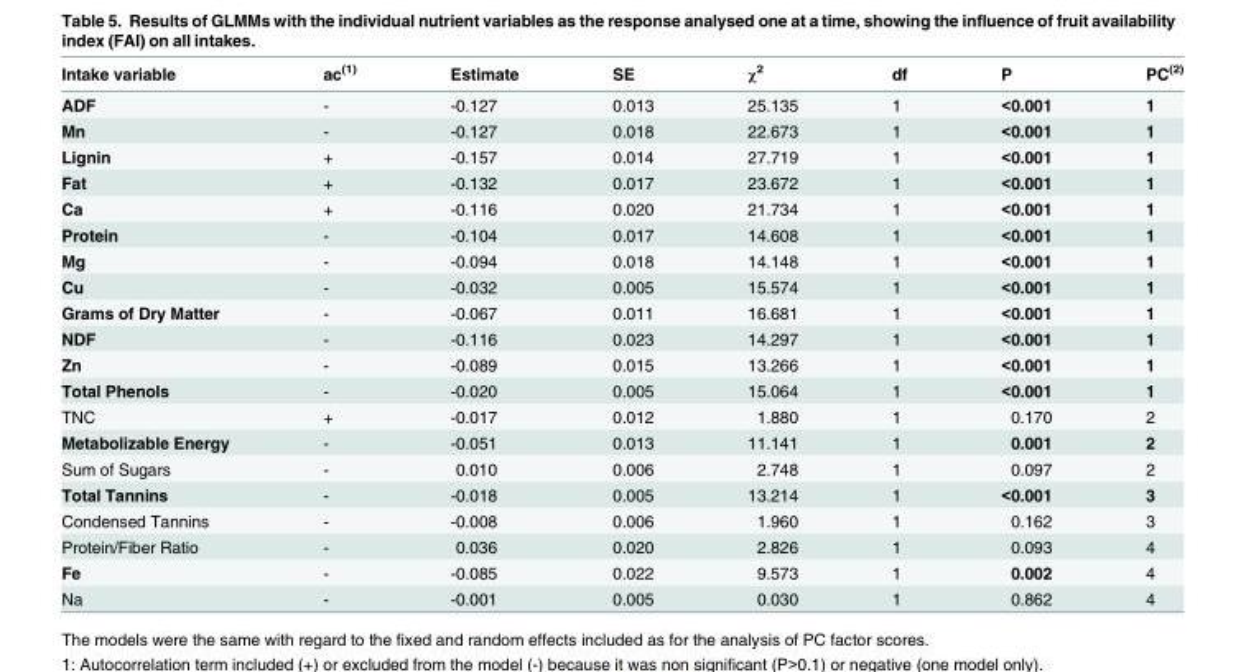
<table><thead><tr><td>Intake variable</td><td>ac<sup>(1)</sup></td><td>Estimate</td><td>SE</td><td>χ<sup>2</sup></td><td>df</td><td>P</td><td>PC<sup>(2)</sup></td></tr></thead><tbody><tr><td>ADF</td><td>-</td><td>-0.127</td><td>0.013</td><td>25.135</td><td>1</td><td>&lt;0.001</td><td>1</td></tr><tr><td>Mn</td><td>-</td><td>-0.127</td><td>0.018</td><td>22.673</td><td>1</td><td>&lt;0.001</td><td>1</td></tr><tr><td>Lignin</td><td>+</td><td>-0.157</td><td>0.014</td><td>27.719</td><td>1</td><td>&lt;0.001</td><td>1</td></tr><tr><td>Fat</td><td>+</td><td>-0.132</td><td>0.017</td><td>23.672</td><td>1</td><td>&lt;0.001</td><td>1</td></tr><tr><td>Ca</td><td>+</td><td>-0.116</td><td>0.020</td><td>21.734</td><td>1</td><td>&lt;0.001</td><td>1</td></tr><tr><td>Protein</td><td>-</td><td>-0.104</td><td>0.017</td><td>14.608</td><td>1</td><td>&lt;0.001</td><td>1</td></tr><tr><td>Mg</td><td>-</td><td>-0.094</td><td>0.018</td><td>14.148</td><td>1</td><td>&lt;0.001</td><td>1</td></tr><tr><td>Cu</td><td>-</td><td>-0.032</td><td>0.005</td><td>15.574</td><td>1</td><td>&lt;0.001</td><td>1</td></tr><tr><td>Grams of Dry Matter</td><td>-</td><td>-0.067</td><td>0.011</td><td>16.681</td><td>1</td><td>&lt;0.001</td><td>1</td></tr><tr><td>NDF</td><td>-</td><td>-0.116</td><td>0.023</td><td>14.297</td><td>1</td><td>&lt;0.001</td><td>1</td></tr><tr><td>Zn</td><td>-</td><td>-0.089</td><td>0.015</td><td>13.266</td><td>1</td><td>&lt;0.001</td><td>1</td></tr><tr><td>Total Phenols</td><td>-</td><td>-0.020</td><td>0.005</td><td>15.064</td><td>1</td><td>&lt;0.001</td><td>1</td></tr><tr><td>TNC</td><td>+</td><td>-0.017</td><td>0.012</td><td>1.880</td><td>1</td><td>0.170</td><td>2</td></tr><tr><td>Metabolizable Energy</td><td>-</td><td>-0.051</td><td>0.013</td><td>11.141</td><td>1</td><td>0.001</td><td>2</td></tr><tr><td>Sum of Sugars</td><td>-</td><td>0.010</td><td>0.006</td><td>2.748</td><td>1</td><td>0.097</td><td>2</td></tr><tr><td>Total Tannins</td><td>-</td><td>-0.018</td><td>0.005</td><td>13.214</td><td>1</td><td>&lt;0.001</td><td>3</td></tr><tr><td>Condensed Tannins</td><td>-</td><td>-0.008</td><td>0.006</td><td>1.960</td><td>1</td><td>0.162</td><td>3</td></tr><tr><td>Protein/Fiber Ratio</td><td>-</td><td>0.036</td><td>0.020</td><td>2.826</td><td>1</td><td>0.093</td><td>4</td></tr><tr><td>Fe</td><td>-</td><td>-0.085</td><td>0.022</td><td>9.573</td><td>1</td><td>0.002</td><td>4</td></tr><tr><td>Na</td><td>-</td><td>-0.001</td><td>0.005</td><td>0.030</td><td>1</td><td>0.862</td><td>4</td></tr></tbody></table>